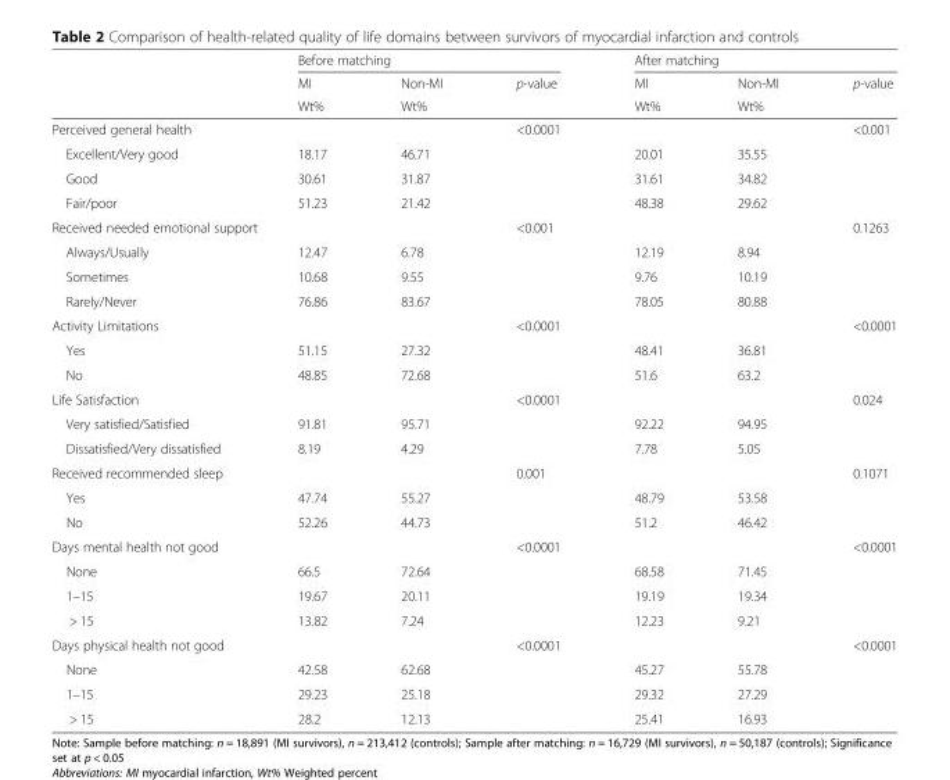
<table><thead><tr><td rowspan="3"></td><td colspan="3">Before matching</td><td colspan="3">After matching</td></tr><tr><td rowspan="2">MI Wt%</td><td rowspan="2">Non-MI Wt%</td><td rowspan="2">p-value</td><td rowspan="2">MI Wt%</td><td rowspan="2">Non-MI Wt%</td><td rowspan="2">p-value</td></tr><tr></tr></thead><tbody><tr><td>Perceived general health</td><td></td><td></td><td>&lt;0.0001</td><td></td><td></td><td>&lt;0.001</td></tr><tr><td>Excellent/Very good</td><td>18.17</td><td>46.71</td><td></td><td>20.01</td><td>35.55</td><td></td></tr><tr><td>Good</td><td>30.61</td><td>31.87</td><td></td><td>31.61</td><td>34.82</td><td></td></tr><tr><td>Fair/poor</td><td>51.23</td><td>21.42</td><td></td><td>48.38</td><td>29.62</td><td></td></tr><tr><td colspan="2">Received needed emotional support</td><td></td><td>&lt;0.001</td><td></td><td></td><td>0.1263</td></tr><tr><td>Always/Usually</td><td>12.47</td><td>6.78</td><td></td><td>12.19</td><td>8.94</td><td></td></tr><tr><td>Sometimes</td><td>10.68</td><td>9.55</td><td></td><td>9.76</td><td>10.19</td><td></td></tr><tr><td>Rarely/Never</td><td>76.86</td><td>83.67</td><td></td><td>78.05</td><td>80.88</td><td></td></tr><tr><td>Activity Limitations</td><td></td><td></td><td>&lt;0.0001</td><td></td><td></td><td>&lt;0.0001</td></tr><tr><td>Yes</td><td>51.15</td><td>27.32</td><td></td><td>48.41</td><td>36.81</td><td></td></tr><tr><td>No</td><td>48.85</td><td>72.68</td><td></td><td>51.6</td><td>63.2</td><td></td></tr><tr><td>Life Satisfaction</td><td></td><td></td><td>&lt;0.0001</td><td></td><td></td><td>0.024</td></tr><tr><td>Very satisfied/Satisfied</td><td>91.81</td><td>95.71</td><td></td><td>92.22</td><td>94.95</td><td></td></tr><tr><td>Dissatisfied/Very dissatisfied</td><td>8.19</td><td>4.29</td><td></td><td>7.78</td><td>5.05</td><td></td></tr><tr><td>Received recommended sleep</td><td></td><td></td><td>0.001</td><td></td><td></td><td>0.1071</td></tr><tr><td>Yes</td><td>47.74</td><td>55.27</td><td></td><td>48.79</td><td>53.58</td><td></td></tr><tr><td>No</td><td>52.26</td><td>44.73</td><td></td><td>51.2</td><td>46.42</td><td></td></tr><tr><td>Days mental health not good</td><td></td><td></td><td>&lt;0.0001</td><td></td><td></td><td>&lt;0.0001</td></tr><tr><td>None</td><td>66.5</td><td>72.64</td><td></td><td>68.58</td><td>71.45</td><td></td></tr><tr><td>1–15</td><td>19.67</td><td>20.11</td><td></td><td>19.19</td><td>19.34</td><td></td></tr><tr><td>&gt; 15</td><td>13.82</td><td>7.24</td><td></td><td>12.23</td><td>9.21</td><td></td></tr><tr><td>Days physical health not good</td><td></td><td></td><td>&lt;0.0001</td><td></td><td></td><td>&lt;0.0001</td></tr><tr><td>None</td><td>42.58</td><td>62.68</td><td></td><td>45.27</td><td>55.78</td><td></td></tr><tr><td>1–15</td><td>29.23</td><td>25.18</td><td></td><td>29.32</td><td>27.29</td><td></td></tr><tr><td>&gt; 15</td><td>28.2</td><td>12.13</td><td></td><td>25.41</td><td>16.93</td><td></td></tr></tbody></table>